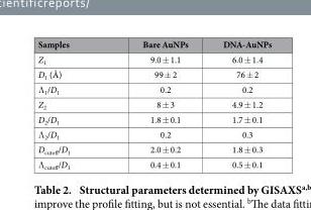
<table><thead><tr><td>Samples</td><td>Bare AuNPs</td><td>DNA-AuNPs</td></tr></thead><tbody><tr><td>Z<sub>1</sub></td><td>9.0 ± 1.1</td><td>6.0 ± 1.4</td></tr><tr><td>D<sub>1</sub> (Å)</td><td>99 ± 2</td><td>76 ± 2</td></tr><tr><td>Λ <sub>1</sub>/D<sub>1</sub></td><td>0.2</td><td>0.2</td></tr><tr><td>Z<sub>2</sub></td><td>8 ± 3</td><td>4.9 ± 1.2</td></tr><tr><td>D<sub>2</sub>/D<sub>1</sub></td><td>1.8 ± 0.1</td><td>1.7 ± 0.1</td></tr><tr><td>Λ <sub>2</sub>/D<sub>1</sub></td><td>0.2</td><td>0.3</td></tr><tr><td>D<sub>cutoff</sub>/D<sub>1</sub></td><td>2.0 ± 0.2</td><td>1.8 ± 0.3</td></tr><tr><td>Λ <sub>cutoff</sub>/D<sub>1</sub></td><td>0.4 ± 0.1</td><td>0.5 ± 0.1</td></tr></tbody></table>